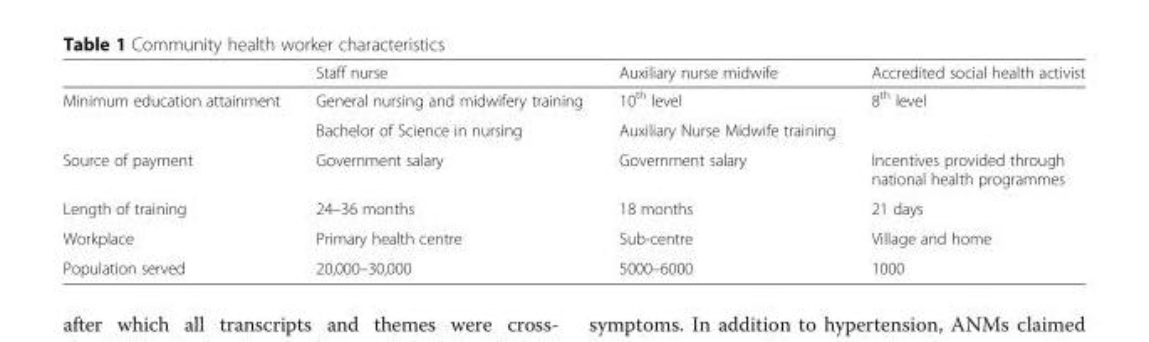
<table><thead><tr><td></td><td>Staff nurse</td><td>Auxiliary nurse midwife</td><td>Accredited social health activist</td></tr></thead><tbody><tr><td rowspan="2">Minimum education attainment</td><td>General nursing and midwifery training</td><td>10<sup>th</sup> level</td><td rowspan="2">8<sup>th</sup> level</td></tr><tr><td>Bachelor of Science in nursing</td><td>Auxiliary Nurse Midwife training</td></tr><tr><td>Source of payment</td><td>Government salary</td><td>Government salary</td><td>Incentives provided through national health programmes</td></tr><tr><td>Length of training</td><td>24–36 months</td><td>18 months</td><td>21 days</td></tr><tr><td>Workplace</td><td>Primary health centre</td><td>Sub-centre</td><td>Village and home</td></tr><tr><td>Population served</td><td>20,000–30,000</td><td>5000–6000</td><td>1000</td></tr></tbody></table>